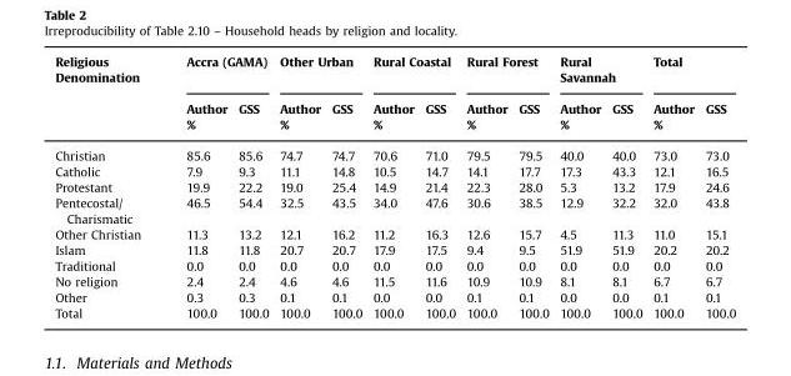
<table><thead><tr><td rowspan="3">Religious Denomination</td><td colspan="2">Accra (GAMA)</td><td colspan="2">Other Urban</td><td colspan="2">Rural Coastal</td><td colspan="2">Rural Forest</td><td colspan="2">Rural Savannah</td><td colspan="2">Total</td></tr><tr><td>Author</td><td>GSS</td><td>Author</td><td>GSS</td><td>Author</td><td>GSS</td><td>Author</td><td>GSS</td><td>Author</td><td>GSS</td><td>Author</td><td>GSS</td></tr><tr><td colspan="2">%</td><td colspan="2">%</td><td colspan="2">%</td><td colspan="2">%</td><td colspan="2">%</td><td colspan="2">%</td></tr></thead><tbody><tr><td>Christian</td><td>85.6</td><td>85.6</td><td>74.7</td><td>74.7</td><td>70.6</td><td>71.0</td><td>79.5</td><td>79.5</td><td>40.0</td><td>40.0</td><td>73.0</td><td>73.0</td></tr><tr><td>Catholic</td><td>7.9</td><td>9.3</td><td>11.1</td><td>14.8</td><td>10.5</td><td>14.7</td><td>14.1</td><td>17.7</td><td>17.3</td><td>43.3</td><td>12.1</td><td>16.5</td></tr><tr><td>Protestant</td><td>19.9</td><td>22.2</td><td>19.0</td><td>25.4</td><td>14.9</td><td>21.4</td><td>22.3</td><td>28.0</td><td>5.3</td><td>13.2</td><td>17.9</td><td>24.6</td></tr><tr><td>Pentecostal/ Charismatic</td><td>46.5</td><td>54.4</td><td>32.5</td><td>43.5</td><td>34.0</td><td>47.6</td><td>30.6</td><td>38.5</td><td>12.9</td><td>32.2</td><td>32.0</td><td>43.8</td></tr><tr><td>Other Christian</td><td>11.3</td><td>13.2</td><td>12.1</td><td>16.2</td><td>11.2</td><td>16.3</td><td>12.6</td><td>15.7</td><td>4.5</td><td>11.3</td><td>11.0</td><td>15.1</td></tr><tr><td>Islam</td><td>11.8</td><td>11.8</td><td>20.7</td><td>20.7</td><td>17.9</td><td>17.5</td><td>9.4</td><td>9.5</td><td>51.9</td><td>51.9</td><td>20.2</td><td>20.2</td></tr><tr><td>Traditional</td><td>0.0</td><td>0.0</td><td>0.0</td><td>0.0</td><td>0.0</td><td>0.0</td><td>0.0</td><td>0.0</td><td>0.0</td><td>0.0</td><td>0.0</td><td>0.0</td></tr><tr><td>No religion</td><td>2.4</td><td>2.4</td><td>4.6</td><td>4.6</td><td>11.5</td><td>11.6</td><td>10.9</td><td>10.9</td><td>8.1</td><td>8.1</td><td>6.7</td><td>6.7</td></tr><tr><td>Other</td><td>0.3</td><td>0.3</td><td>0.1</td><td>0.1</td><td>0.0</td><td>0.0</td><td>0.1</td><td>0.1</td><td>0.0</td><td>0.0</td><td>0.1</td><td>0.1</td></tr><tr><td>Total</td><td>100.0</td><td>100.0</td><td>100.0</td><td>100.0</td><td>100.0</td><td>100.0</td><td>100.0</td><td>100.0</td><td>100.0</td><td>100.0</td><td>100.0</td><td>100.0</td></tr></tbody></table>